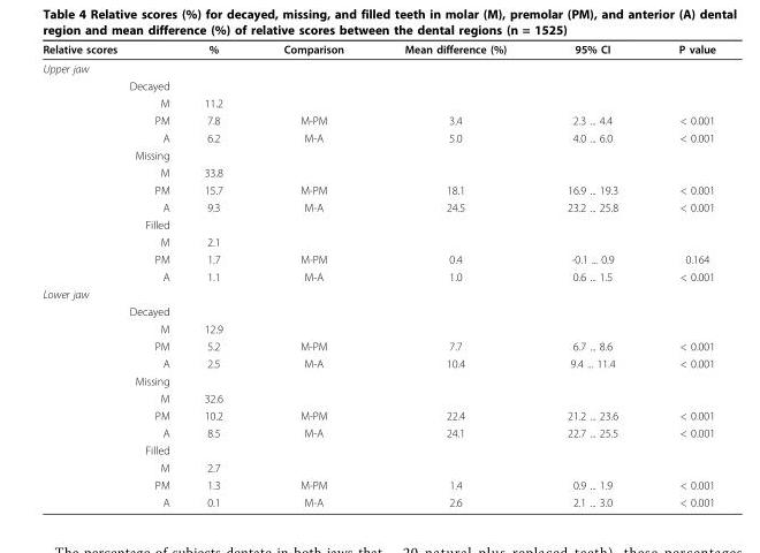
<table><thead><tr><td>Relative scores</td><td>%</td><td>Comparison</td><td>Mean difference (%)</td><td>95% CI</td><td>P value</td></tr></thead><tbody><tr><td colspan="6">Upper jaw</td></tr><tr><td colspan="6">Decayed</td></tr><tr><td>M</td><td>11.2</td><td></td><td></td><td></td><td></td></tr><tr><td>PM</td><td>7.8</td><td>M-PM</td><td>3.4</td><td>2.3 ... 4.4</td><td>&lt; 0.001</td></tr><tr><td>A</td><td>6.2</td><td>M-A</td><td>5.0</td><td>4.0 ... 6.0</td><td>&lt; 0.001</td></tr><tr><td colspan="6">Missing</td></tr><tr><td>M</td><td>33.8</td><td></td><td></td><td></td><td></td></tr><tr><td>PM</td><td>15.7</td><td>M-PM</td><td>18.1</td><td>16.9 ... 19.3</td><td>&lt; 0.001</td></tr><tr><td>A</td><td>9.3</td><td>M-A</td><td>24.5</td><td>23.2 ... 25.8</td><td>&lt; 0.001</td></tr><tr><td colspan="6">Filled</td></tr><tr><td>M</td><td>2.1</td><td></td><td></td><td></td><td></td></tr><tr><td>PM</td><td>1.7</td><td>M-PM</td><td>0.4</td><td>-0.1 ... 0.9</td><td>0.164</td></tr><tr><td>A</td><td>1.1</td><td>M-A</td><td>1.0</td><td>0.6 ... 1.5</td><td>&lt; 0.001</td></tr><tr><td colspan="6">Lower jaw</td></tr><tr><td colspan="6">Decayed</td></tr><tr><td>M</td><td>12.9</td><td></td><td></td><td></td><td></td></tr><tr><td>PM</td><td>5.2</td><td>M-PM</td><td>7.7</td><td>6.7 ... 8.6</td><td>&lt; 0.001</td></tr><tr><td>A</td><td>2.5</td><td>M-A</td><td>10.4</td><td>9.4 ... 11.4</td><td>&lt; 0.001</td></tr><tr><td colspan="6">Missing</td></tr><tr><td>M</td><td>32.6</td><td></td><td></td><td></td><td></td></tr><tr><td>PM</td><td>10.2</td><td>M-PM</td><td>22.4</td><td>21.2 ... 23.6</td><td>&lt; 0.001</td></tr><tr><td>A</td><td>8.5</td><td>M-A</td><td>24.1</td><td>22.7 ... 25.5</td><td>&lt; 0.001</td></tr><tr><td colspan="6">Filled</td></tr><tr><td>M</td><td>2.7</td><td></td><td></td><td></td><td></td></tr><tr><td>PM</td><td>1.3</td><td>M-PM</td><td>1.4</td><td>0.9 ... 1.9</td><td>&lt; 0.001</td></tr><tr><td>A</td><td>0.1</td><td>M-A</td><td>2.6</td><td>2.1 ... 3.0</td><td>&lt; 0.001</td></tr></tbody></table>